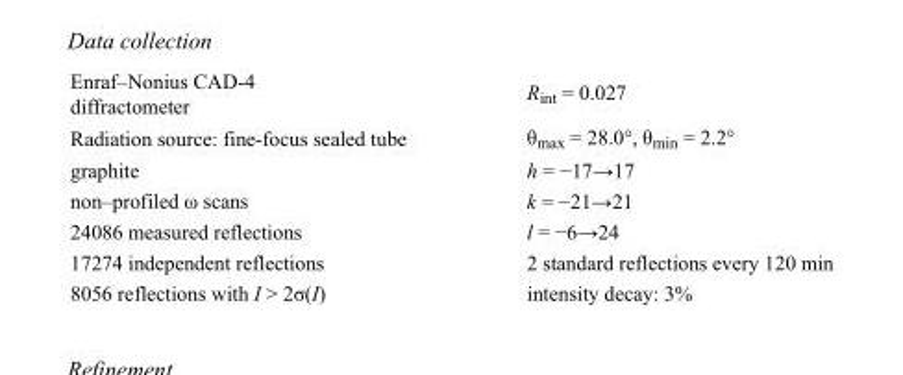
<table><tbody><tr><td>Enraf–Nonius CAD-4 diffractometer</td><td>R<sub>int</sub> = 0.027</td></tr><tr><td>Radiation source: fine-focus sealed tube</td><td>θ<sub>max</sub> = 28.0°, θ<sub>min</sub> = 2.2°</td></tr><tr><td>graphite</td><td>h = −17→17</td></tr><tr><td>non–profiled ω scans</td><td>k = −21→21</td></tr><tr><td>24086 measured reflections</td><td>l = −6→24</td></tr><tr><td>17274 independent reflections</td><td>2 standard reflections every 120 min</td></tr><tr><td>8056 reflections with I &gt; 2σ(I)</td><td>intensity decay: 3%</td></tr></tbody></table>